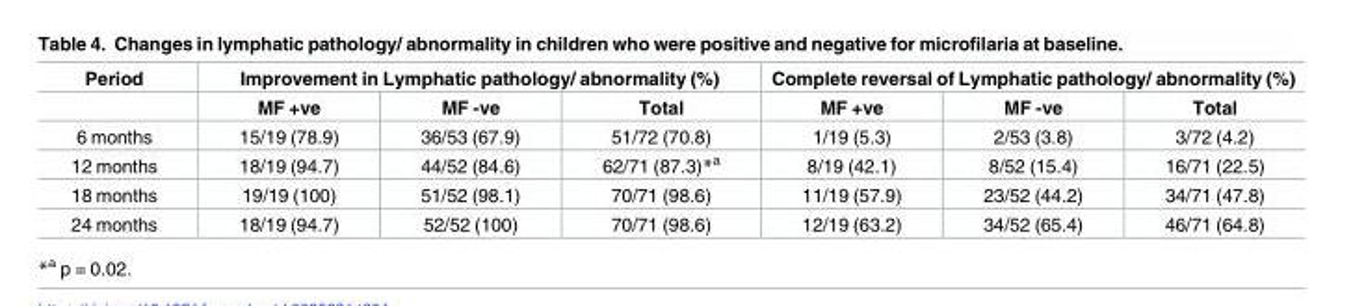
<table><thead><tr><td rowspan="2">Period</td><td colspan="3">Improvement in Lymphatic pathology/ abnormality (%)</td><td colspan="3">Complete reversal of Lymphatic pathology/ abnormality (%)</td></tr><tr><td>MF +ve</td><td>MF -ve</td><td>Total</td><td>MF +ve</td><td>MF -ve</td><td>Total</td></tr></thead><tbody><tr><td>6 months</td><td>15/19 (78.9)</td><td>36/53 (67.9)</td><td>51/72 (70.8)</td><td>1/19 (5.3)</td><td>2/53 (3.8)</td><td>3/72 (4.2)</td></tr><tr><td>12 months</td><td>18/19 (94.7)</td><td>44/52 (84.6)</td><td>62/71 (87.3)*<sup>a</sup></td><td>8/19 (42.1)</td><td>8/52 (15.4)</td><td>16/71 (22.5)</td></tr><tr><td>18 months</td><td>19/19 (100)</td><td>51/52 (98.1)</td><td>70/71 (98.6)</td><td>11/19 (57.9)</td><td>23/52 (44.2)</td><td>34/71 (47.8)</td></tr><tr><td>24 months</td><td>18/19 (94.7)</td><td>52/52 (100)</td><td>70/71 (98.6)</td><td>12/19 (63.2)</td><td>34/52 (65.4)</td><td>46/71 (64.8)</td></tr></tbody></table>